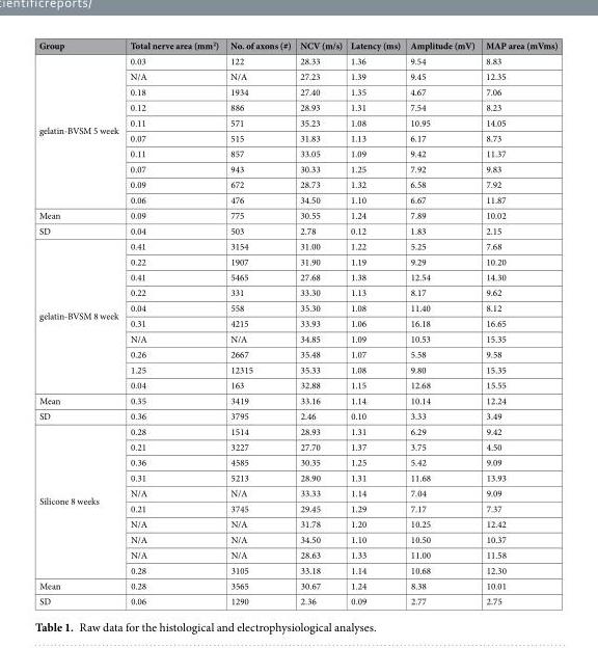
<table><thead><tr><td>Group</td><td>Total nerve area (mm<sup>2</sup>)</td><td>No. of axons (#)</td><td>NCV (m/s)</td><td>Latency (ms)</td><td>Amplitude (mV)</td><td>MAP area (mVms)</td></tr></thead><tbody><tr><td rowspan="10">gelatin-BVSM 5 week</td><td>0.03</td><td>122</td><td>28.33</td><td>1.36</td><td>9.54</td><td>8.83</td></tr><tr><td>N/A</td><td>N/A</td><td>27.23</td><td>1.39</td><td>9.45</td><td>12.35</td></tr><tr><td>0.18</td><td>1934</td><td>27.40</td><td>1.35</td><td>4.67</td><td>7.06</td></tr><tr><td>0.12</td><td>886</td><td>28.93</td><td>1.31</td><td>7.54</td><td>8.23</td></tr><tr><td>0.11</td><td>571</td><td>35.23</td><td>1.08</td><td>10.95</td><td>14.05</td></tr><tr><td>0.07</td><td>515</td><td>31.83</td><td>1.13</td><td>6.17</td><td>8.73</td></tr><tr><td>0.11</td><td>857</td><td>33.05</td><td>1.09</td><td>9.42</td><td>11.37</td></tr><tr><td>0.07</td><td>943</td><td>30.33</td><td>1.25</td><td>7.92</td><td>9.83</td></tr><tr><td>0.09</td><td>672</td><td>28.73</td><td>1.32</td><td>6.58</td><td>7.92</td></tr><tr><td>0.06</td><td>476</td><td>34.50</td><td>1.10</td><td>6.67</td><td>11.87</td></tr><tr><td>Mean</td><td>0.09</td><td>775</td><td>30.55</td><td>1.24</td><td>7.89</td><td>10.02</td></tr><tr><td>SD</td><td>0.04</td><td>503</td><td>2.78</td><td>0.12</td><td>1.83</td><td>2.15</td></tr><tr><td rowspan="10">gelatin-BVSM 8 week</td><td>0.41</td><td>3154</td><td>31.00</td><td>1.22</td><td>5.25</td><td>7.68</td></tr><tr><td>0.22</td><td>1907</td><td>31.90</td><td>1.19</td><td>9.29</td><td>10.20</td></tr><tr><td>0.41</td><td>5465</td><td>27.68</td><td>1.38</td><td>12.54</td><td>14.30</td></tr><tr><td>0.22</td><td>331</td><td>33.30</td><td>1.13</td><td>8.17</td><td>9.62</td></tr><tr><td>0.04</td><td>558</td><td>35.30</td><td>1.08</td><td>11.40</td><td>8.12</td></tr><tr><td>0.31</td><td>4215</td><td>33.93</td><td>1.06</td><td>16.18</td><td>16.65</td></tr><tr><td>N/A</td><td>N/A</td><td>34.85</td><td>1.09</td><td>10.53</td><td>15.35</td></tr><tr><td>0.26</td><td>2667</td><td>35.48</td><td>1.07</td><td>5.58</td><td>9.58</td></tr><tr><td>1.25</td><td>12315</td><td>35.33</td><td>1.08</td><td>9.80</td><td>15.35</td></tr><tr><td>0.04</td><td>163</td><td>32.88</td><td>1.15</td><td>12.68</td><td>15.55</td></tr><tr><td>Mean</td><td>0.35</td><td>3419</td><td>33.16</td><td>1.14</td><td>10.14</td><td>12.24</td></tr><tr><td>SD</td><td>0.36</td><td>3795</td><td>2.46</td><td>0.10</td><td>3.33</td><td>3.49</td></tr><tr><td rowspan="10">Silicone 8 weeks</td><td>0.28</td><td>1514</td><td>28.93</td><td>1.31</td><td>6.29</td><td>9.42</td></tr><tr><td>0.21</td><td>3227</td><td>27.70</td><td>1.37</td><td>3.75</td><td>4.50</td></tr><tr><td>0.36</td><td>4585</td><td>30.35</td><td>1.25</td><td>5.42</td><td>9.09</td></tr><tr><td>0.31</td><td>5213</td><td>28.90</td><td>1.31</td><td>11.68</td><td>13.93</td></tr><tr><td>N/A</td><td>N/A</td><td>33.33</td><td>1.14</td><td>7.04</td><td>9.09</td></tr><tr><td>0.21</td><td>3745</td><td>29.45</td><td>1.29</td><td>7.17</td><td>7.37</td></tr><tr><td>N/A</td><td>N/A</td><td>31.78</td><td>1.20</td><td>10.25</td><td>12.42</td></tr><tr><td>N/A</td><td>N/A</td><td>34.50</td><td>1.10</td><td>10.50</td><td>10.37</td></tr><tr><td>N/A</td><td>N/A</td><td>28.63</td><td>1.33</td><td>11.00</td><td>11.58</td></tr><tr><td>0.28</td><td>3105</td><td>33.18</td><td>1.14</td><td>10.68</td><td>12.30</td></tr><tr><td>Mean</td><td>0.28</td><td>3565</td><td>30.67</td><td>1.24</td><td>8.38</td><td>10.01</td></tr><tr><td>SD</td><td>0.06</td><td>1290</td><td>2.36</td><td>0.09</td><td>2.77</td><td>2.75</td></tr></tbody></table>